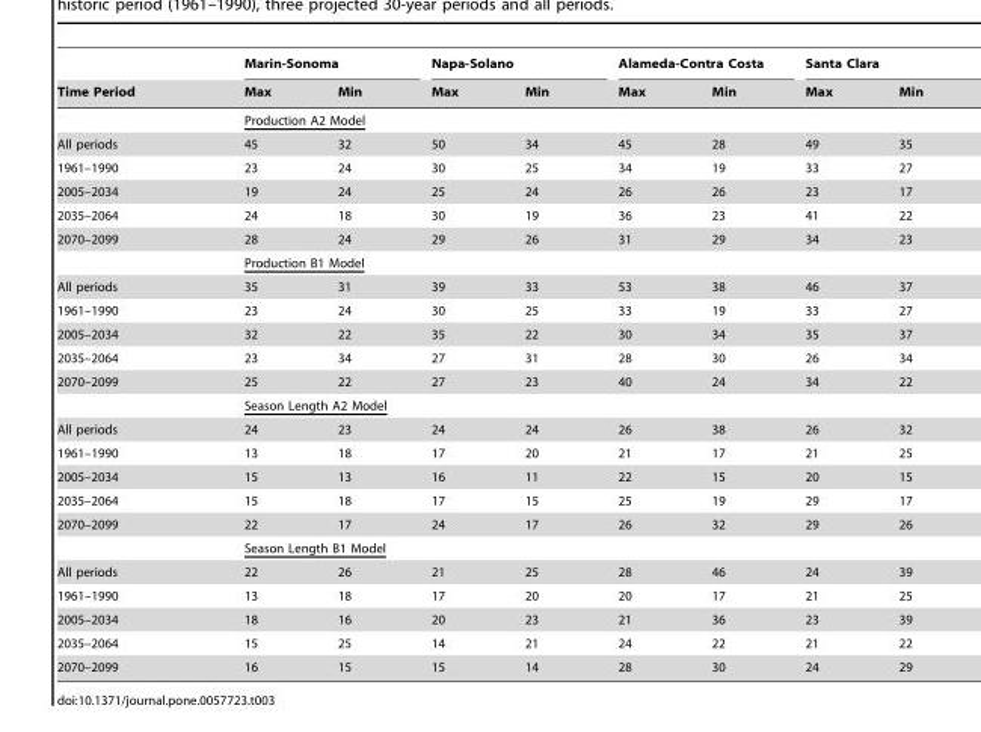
<table><thead><tr><td rowspan="2">Time Period</td><td colspan="2">Marin-Sonoma</td><td colspan="2">Napa-Solano</td><td colspan="2">Alameda-Contra Costa</td><td colspan="2">Santa Clara</td></tr><tr><td>Max</td><td>Min</td><td>Max</td><td>Min</td><td>Max</td><td>Min</td><td>Max</td><td>Min</td></tr></thead><tbody><tr><td></td><td colspan="8">Production A2 Model</td></tr><tr><td>All periods</td><td>45</td><td>32</td><td>50</td><td>34</td><td>45</td><td>28</td><td>49</td><td>35</td></tr><tr><td>1961–1990</td><td>23</td><td>24</td><td>30</td><td>25</td><td>34</td><td>19</td><td>33</td><td>27</td></tr><tr><td>2005–2034</td><td>19</td><td>24</td><td>25</td><td>24</td><td>26</td><td>26</td><td>23</td><td>17</td></tr><tr><td>2035–2064</td><td>24</td><td>18</td><td>30</td><td>19</td><td>36</td><td>23</td><td>41</td><td>22</td></tr><tr><td rowspan="2">2070–2099</td><td>28</td><td>24</td><td>29</td><td>26</td><td>31</td><td>29</td><td>34</td><td>23</td></tr><tr><td colspan="8">Production B1 Model</td></tr><tr><td>All periods</td><td>35</td><td>31</td><td>39</td><td>33</td><td>53</td><td>38</td><td>46</td><td>37</td></tr><tr><td>1961–1990</td><td>23</td><td>24</td><td>30</td><td>25</td><td>33</td><td>19</td><td>33</td><td>27</td></tr><tr><td>2005–2034</td><td>32</td><td>22</td><td>35</td><td>22</td><td>30</td><td>34</td><td>35</td><td>37</td></tr><tr><td>2035–2064</td><td>23</td><td>34</td><td>27</td><td>31</td><td>28</td><td>30</td><td>26</td><td>34</td></tr><tr><td rowspan="2">2070–2099</td><td>25</td><td>22</td><td>27</td><td>23</td><td>40</td><td>24</td><td>34</td><td>22</td></tr><tr><td colspan="8">Season Length A2 Model</td></tr><tr><td>All periods</td><td>24</td><td>23</td><td>24</td><td>24</td><td>26</td><td>38</td><td>26</td><td>32</td></tr><tr><td>1961–1990</td><td>13</td><td>18</td><td>17</td><td>20</td><td>21</td><td>17</td><td>21</td><td>25</td></tr><tr><td>2005–2034</td><td>15</td><td>13</td><td>16</td><td>11</td><td>22</td><td>15</td><td>20</td><td>15</td></tr><tr><td>2035–2064</td><td>15</td><td>18</td><td>17</td><td>15</td><td>25</td><td>19</td><td>29</td><td>17</td></tr><tr><td rowspan="2">2070–2099</td><td>22</td><td>17</td><td>24</td><td>17</td><td>26</td><td>32</td><td>29</td><td>26</td></tr><tr><td colspan="8">Season Length B1 Model</td></tr><tr><td>All periods</td><td>22</td><td>26</td><td>21</td><td>25</td><td>28</td><td>46</td><td>24</td><td>39</td></tr><tr><td>1961–1990</td><td>13</td><td>18</td><td>17</td><td>20</td><td>20</td><td>17</td><td>21</td><td>25</td></tr><tr><td>2005–2034</td><td>18</td><td>16</td><td>20</td><td>23</td><td>21</td><td>36</td><td>23</td><td>39</td></tr><tr><td>2035–2064</td><td>15</td><td>25</td><td>14</td><td>21</td><td>24</td><td>22</td><td>21</td><td>22</td></tr><tr><td>2070–2099</td><td>16</td><td>15</td><td>15</td><td>14</td><td>28</td><td>30</td><td>24</td><td>29</td></tr></tbody></table>